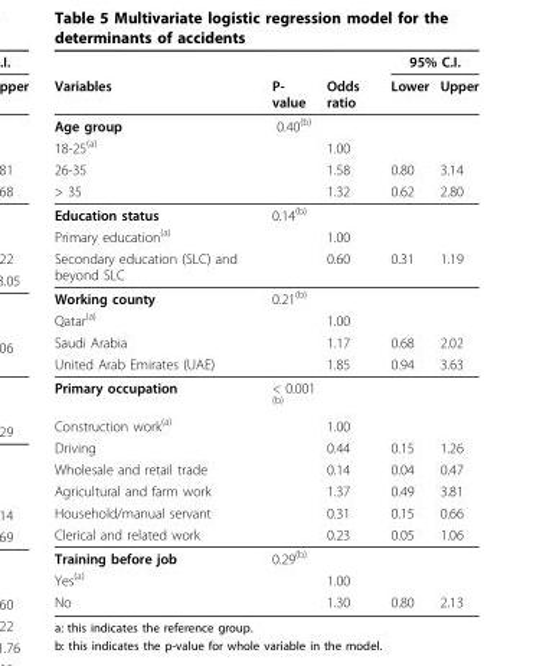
<table><thead><tr><td rowspan="2">Variables</td><td rowspan="2">P- value</td><td rowspan="2">Odds ratio</td><td colspan="2">95% C.I.</td></tr><tr><td>Lower</td><td>Upper</td></tr></thead><tbody><tr><td>Age group</td><td>0.40<sup>(b)</sup></td><td></td><td></td><td></td></tr><tr><td>18-25<sup>(a)</sup></td><td></td><td>1.00</td><td></td><td></td></tr><tr><td>26-35</td><td></td><td>1.58</td><td>0.80</td><td>3.14</td></tr><tr><td>&gt; 35</td><td></td><td>1.32</td><td>0.62</td><td>2.80</td></tr><tr><td>Education status</td><td>0.14<sup>(b)</sup></td><td></td><td></td><td></td></tr><tr><td>Primary education<sup>(a)</sup></td><td></td><td>1.00</td><td></td><td></td></tr><tr><td>Secondary education (SLC) and beyond SLC</td><td></td><td>0.60</td><td>0.31</td><td>1.19</td></tr><tr><td>Working county</td><td>0.21<sup>(b)</sup></td><td></td><td></td><td></td></tr><tr><td>Qatar<sup>(a)</sup></td><td></td><td>1.00</td><td></td><td></td></tr><tr><td>Saudi Arabia</td><td></td><td>1.17</td><td>0.68</td><td>2.02</td></tr><tr><td>United Arab Emirates (UAE)</td><td></td><td>1.85</td><td>0.94</td><td>3.63</td></tr><tr><td>Primary occupation</td><td>&lt; 0.001 <sup>(b)</sup></td><td></td><td></td><td></td></tr><tr><td>Construction work<sup>(a)</sup></td><td></td><td>1.00</td><td></td><td></td></tr><tr><td>Driving</td><td></td><td>0.44</td><td>0.15</td><td>1.26</td></tr><tr><td>Wholesale and retail trade</td><td></td><td>0.14</td><td>0.04</td><td>0.47</td></tr><tr><td>Agricultural and farm work</td><td></td><td>1.37</td><td>0.49</td><td>3.81</td></tr><tr><td>Household/manual servant</td><td></td><td>0.31</td><td>0.15</td><td>0.66</td></tr><tr><td>Clerical and related work</td><td></td><td>0.23</td><td>0.05</td><td>1.06</td></tr><tr><td>Training before job</td><td>0.29<sup>(b)</sup></td><td></td><td></td><td></td></tr><tr><td>Yes<sup>(a)</sup></td><td></td><td>1.00</td><td></td><td></td></tr><tr><td>No</td><td></td><td>1.30</td><td>0.80</td><td>2.13</td></tr></tbody></table>